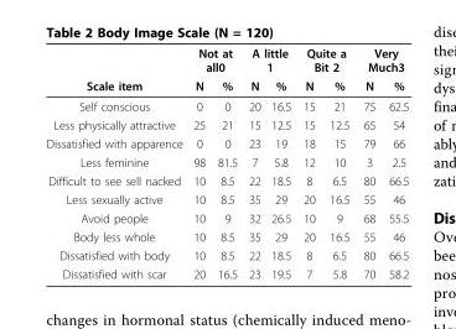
<table><thead><tr><td rowspan="2">Scale item</td><td colspan="2">Not at all0</td><td colspan="2">A little 1</td><td colspan="2">Quite a Bit 2</td><td colspan="2">Very Much3</td></tr><tr><td>N</td><td>%</td><td>N</td><td>%</td><td>N</td><td>%</td><td>N</td><td>%</td></tr></thead><tbody><tr><td>Self conscious</td><td>0</td><td>0</td><td>20</td><td>16.5</td><td>15</td><td>21</td><td>75</td><td>62.5</td></tr><tr><td>Less physically attractive</td><td>25</td><td>21</td><td>15</td><td>12.5</td><td>15</td><td>12.5</td><td>65</td><td>54</td></tr><tr><td>Dissatisfied with apparence</td><td>0</td><td>0</td><td>23</td><td>19</td><td>18</td><td>15</td><td>79</td><td>66</td></tr><tr><td>Less feminine</td><td>98</td><td>81.5</td><td>7</td><td>5.8</td><td>12</td><td>10</td><td>3</td><td>2.5</td></tr><tr><td>Difficult to see sell nacked</td><td>10</td><td>8.5</td><td>22</td><td>18.5</td><td>8</td><td>6.5</td><td>80</td><td>66.5</td></tr><tr><td>Less sexually active</td><td>10</td><td>8.5</td><td>35</td><td>29</td><td>20</td><td>16.5</td><td>55</td><td>46</td></tr><tr><td>Avoid people</td><td>10</td><td>9</td><td>32</td><td>26.5</td><td>10</td><td>9</td><td>68</td><td>55.5</td></tr><tr><td>Body less whole</td><td>10</td><td>8.5</td><td>35</td><td>29</td><td>20</td><td>16.5</td><td>55</td><td>46</td></tr><tr><td>Dissatisfied with body</td><td>10</td><td>8.5</td><td>22</td><td>18.5</td><td>8</td><td>6.5</td><td>80</td><td>66.5</td></tr><tr><td>Dissatisfied with scar</td><td>20</td><td>16.5</td><td>23</td><td>19.5</td><td>7</td><td>5.8</td><td>70</td><td>58.2</td></tr></tbody></table>